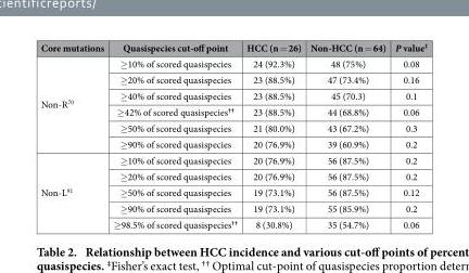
<table><thead><tr><td>Core mutations</td><td>Quasispecies cut-off point</td><td>HCC (n = 26)</td><td>Non-HCC (n = 64)</td><td>P value‡</td></tr></thead><tbody><tr><td rowspan="6">Non-R<sup>70</sup></td><td>≥ 10% of scored quasispecies</td><td>24 (92.3%)</td><td>48 (75%)</td><td>0.08</td></tr><tr><td>≥ 20% of scored quasispecies</td><td>23 (88.5%)</td><td>47 (73.4%)</td><td>0.16</td></tr><tr><td>≥ 40% of scored quasispecies</td><td>23 (88.5%)</td><td>45 (70.3)</td><td>0.1</td></tr><tr><td>≥ 42% of scored quasispecies<sup>††</sup></td><td>23 (88.5%)</td><td>44 (68.8%)</td><td>0.06</td></tr><tr><td>≥ 50% of scored quasispecies</td><td>21 (80.0%)</td><td>43 (67.2%)</td><td>0.3</td></tr><tr><td>≥ 90% of scored quasispecies</td><td>20 (76.9%)</td><td>39 (60.9%)</td><td>0.2</td></tr><tr><td rowspan="5">Non-L<sup>91</sup></td><td>≥ 10% of scored quasispecies</td><td>20 (76.9%)</td><td>56 (87.5%)</td><td>0.2</td></tr><tr><td>≥ 20% of scored quasispecies</td><td>20 (76.9%)</td><td>56 (87.5%)</td><td>0.2</td></tr><tr><td>≥ 50% of scored quasispecies</td><td>19 (73.1%)</td><td>56 (87.5%)</td><td>0.12</td></tr><tr><td>≥ 90% of scored quasispecies</td><td>19 (73.1%)</td><td>55 (85.9%)</td><td>0.2</td></tr><tr><td>≥ 98.5% of scored quasispecies<sup>††</sup></td><td>8 (30.8%)</td><td>35 (54.7%)</td><td>0.06</td></tr></tbody></table>